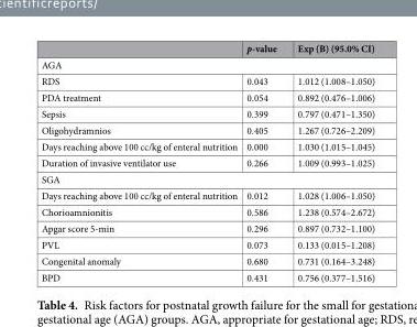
<table><thead><tr><td></td><td>p-value</td><td>Exp (B) (95.0% CI)</td></tr></thead><tbody><tr><td colspan="3">AGA</td></tr><tr><td>RDS</td><td>0.043</td><td>1.012 (1.008–1.050)</td></tr><tr><td>PDA treatment</td><td>0.054</td><td>0.892 (0.476–1.006)</td></tr><tr><td>Sepsis</td><td>0.399</td><td>0.797 (0.471–1.350)</td></tr><tr><td>Oligohydramnios</td><td>0.405</td><td>1.267 (0.726–2.209)</td></tr><tr><td>Days reaching above 100 cc/kg of enteral nutrition</td><td>0.000</td><td>1.030 (1.015–1.045)</td></tr><tr><td>Duration of invasive ventilator use</td><td>0.266</td><td>1.009 (0.993–1.025)</td></tr><tr><td colspan="3">SGA</td></tr><tr><td>Days reaching above 100 cc/kg of enteral nutrition</td><td>0.012</td><td>1.028 (1.006–1.050)</td></tr><tr><td>Chorioamnionitis</td><td>0.586</td><td>1.238 (0.574–2.672)</td></tr><tr><td>Apgar score 5-min</td><td>0.296</td><td>0.897 (0.732–1.100)</td></tr><tr><td>PVL</td><td>0.073</td><td>0.133 (0.015–1.208)</td></tr><tr><td>Congenital anomaly</td><td>0.680</td><td>0.731 (0.164–3.248)</td></tr><tr><td>BPD</td><td>0.431</td><td>0.756 (0.377–1.516)</td></tr></tbody></table>